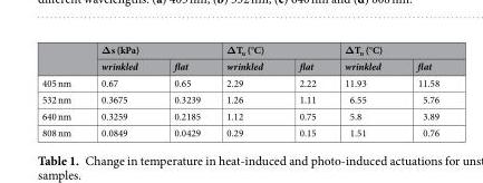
<table><thead><tr><td rowspan="2"></td><td colspan="2">Δs (kPa)</td><td colspan="2">ΔT<sub>u</sub> (°C)</td><td colspan="2">ΔT<sub>n</sub> (°C)</td></tr><tr><td>wrinkled</td><td>flat</td><td>wrinkled</td><td>flat</td><td>wrinkled</td><td>flat</td></tr></thead><tbody><tr><td>405 nm</td><td>0.67</td><td>0.65</td><td>2.29</td><td>2.22</td><td>11.93</td><td>11.58</td></tr><tr><td>532 nm</td><td>0.3675</td><td>0.3239</td><td>1.26</td><td>1.11</td><td>6.55</td><td>5.76</td></tr><tr><td>640 nm</td><td>0.3259</td><td>0.2185</td><td>1.12</td><td>0.75</td><td>5.8</td><td>3.89</td></tr><tr><td>808 nm</td><td>0.0849</td><td>0.0429</td><td>0.29</td><td>0.15</td><td>1.51</td><td>0.76</td></tr></tbody></table>